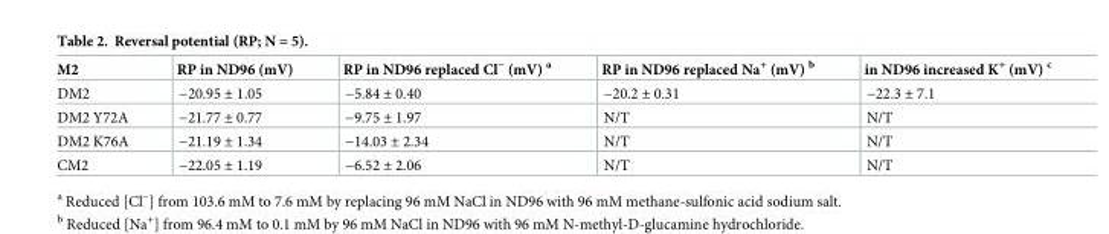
<table><thead><tr><td>M2</td><td>RP in ND96 (mV)</td><td>RP in ND96 replaced Cl<sup>−</sup> (mV) <sup>a</sup></td><td>RP in ND96 replaced Na<sup>+</sup> (mV) <sup>b</sup></td><td>in ND96 increased K<sup>+</sup> (mV) <sup>c</sup></td></tr></thead><tbody><tr><td>DM2</td><td>−20.95 ± 1.05</td><td>−5.84 ± 0.40</td><td>−20.2 ± 0.31</td><td>−22.3 ± 7.1</td></tr><tr><td>DM2 Y72A</td><td>−21.77 ± 0.77</td><td>−9.75 ± 1.97</td><td>N/T</td><td>N/T</td></tr><tr><td>DM2 K76A</td><td>−21.19 ± 1.34</td><td>−14.03 ± 2.34</td><td>N/T</td><td>N/T</td></tr><tr><td>CM2</td><td>−22.05 ± 1.19</td><td>−6.52 ± 2.06</td><td>N/T</td><td>N/T</td></tr></tbody></table>